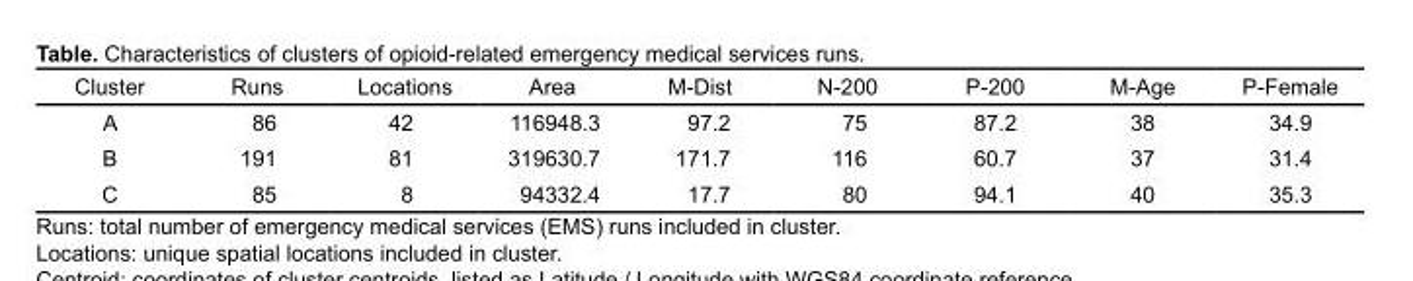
<table><thead><tr><td>Cluster</td><td>Runs</td><td>Locations</td><td>Area</td><td>M-Dist</td><td>N-200</td><td>P-200</td><td>M-Age</td><td>P-Female</td></tr></thead><tbody><tr><td>A</td><td>86</td><td>42</td><td>116948.3</td><td>97.2</td><td>75</td><td>87.2</td><td>38</td><td>34.9</td></tr><tr><td>B</td><td>191</td><td>81</td><td>319630.7</td><td>171.7</td><td>116</td><td>60.7</td><td>37</td><td>31.4</td></tr><tr><td>C</td><td>85</td><td>8</td><td>94332.4</td><td>17.7</td><td>80</td><td>94.1</td><td>40</td><td>35.3</td></tr></tbody></table>